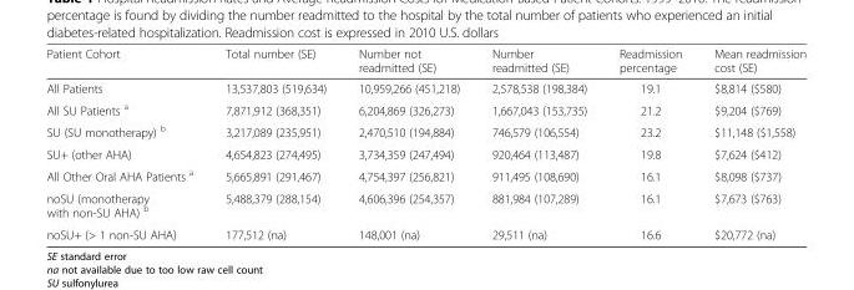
<table><thead><tr><td>Patient Cohort</td><td>Total number (SE)</td><td>Number not readmitted (SE)</td><td>Number readmitted (SE)</td><td>Readmission percentage</td><td>Mean readmission cost (SE)</td></tr></thead><tbody><tr><td>All Patients</td><td>13,537,803 (519,634)</td><td>10,959,266 (451,218)</td><td>2,578,538 (198,384)</td><td>19.1</td><td>$8,814 ($580)</td></tr><tr><td>All SU Patients <sup>a</sup></td><td>7,871,912 (368,351)</td><td>6,204,869 (326,273)</td><td>1,667,043 (153,735)</td><td>21.2</td><td>$9,204 ($769)</td></tr><tr><td>SU (SU monotherapy) <sup>b</sup></td><td>3,217,089 (235,951)</td><td>2,470,510 (194,884)</td><td>746,579 (106,554)</td><td>23.2</td><td>$11,148 ($1,558)</td></tr><tr><td>SU+ (other AHA)</td><td>4,654,823 (274,495)</td><td>3,734,359 (247,494)</td><td>920,464 (113,487)</td><td>19.8</td><td>$7,624 ($412)</td></tr><tr><td>All Other Oral AHA Patients <sup>a</sup></td><td>5,665,891 (291,467)</td><td>4,754,397 (256,821)</td><td>911,495 (108,690)</td><td>16.1</td><td>$8,098 ($737)</td></tr><tr><td>noSU (monotherapy with non-SU AHA) <sup>b</sup></td><td>5,488,379 (288,154)</td><td>4,606,396 (254,357)</td><td>881,984 (107,289)</td><td>16.1</td><td>$7,673 ($763)</td></tr><tr><td>noSU+ (&gt; 1 non-SU AHA)</td><td>177,512 (na)</td><td>148,001 (na)</td><td>29,511 (na)</td><td>16.6</td><td>$20,772 (na)</td></tr></tbody></table>